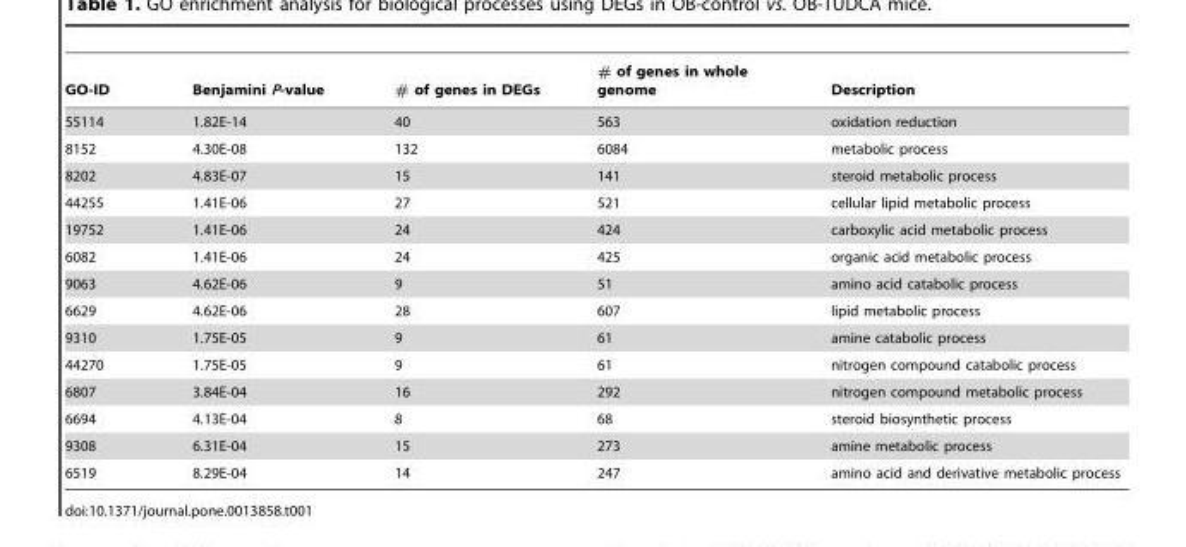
<table><thead><tr><td>GO-ID</td><td>Benjamini P-value</td><td># of genes in DEGs</td><td># of genes in whole genome</td><td>Description</td></tr></thead><tbody><tr><td>55114</td><td>1.82E-14</td><td>40</td><td>563</td><td>oxidation reduction</td></tr><tr><td>8152</td><td>4.30E-08</td><td>132</td><td>6084</td><td>metabolic process</td></tr><tr><td>8202</td><td>4.83E-07</td><td>15</td><td>141</td><td>steroid metabolic process</td></tr><tr><td>44255</td><td>1.41E-06</td><td>27</td><td>521</td><td>cellular lipid metabolic process</td></tr><tr><td>19752</td><td>1.41E-06</td><td>24</td><td>424</td><td>carboxylic acid metabolic process</td></tr><tr><td>6082</td><td>1.41E-06</td><td>24</td><td>425</td><td>organic acid metabolic process</td></tr><tr><td>9063</td><td>4.62E-06</td><td>9</td><td>51</td><td>amino acid catabolic process</td></tr><tr><td>6629</td><td>4.62E-06</td><td>28</td><td>607</td><td>lipid metabolic process</td></tr><tr><td>9310</td><td>1.75E-05</td><td>9</td><td>61</td><td>amine catabolic process</td></tr><tr><td>44270</td><td>1.75E-05</td><td>9</td><td>61</td><td>nitrogen compound catabolic process</td></tr><tr><td>6807</td><td>3.84E-04</td><td>16</td><td>292</td><td>nitrogen compound metabolic process</td></tr><tr><td>6694</td><td>4.13E-04</td><td>8</td><td>68</td><td>steroid biosynthetic process</td></tr><tr><td>9308</td><td>6.31E-04</td><td>15</td><td>273</td><td>amine metabolic process</td></tr><tr><td>6519</td><td>8.29E-04</td><td>14</td><td>247</td><td>amino acid and derivative metabolic process</td></tr></tbody></table>